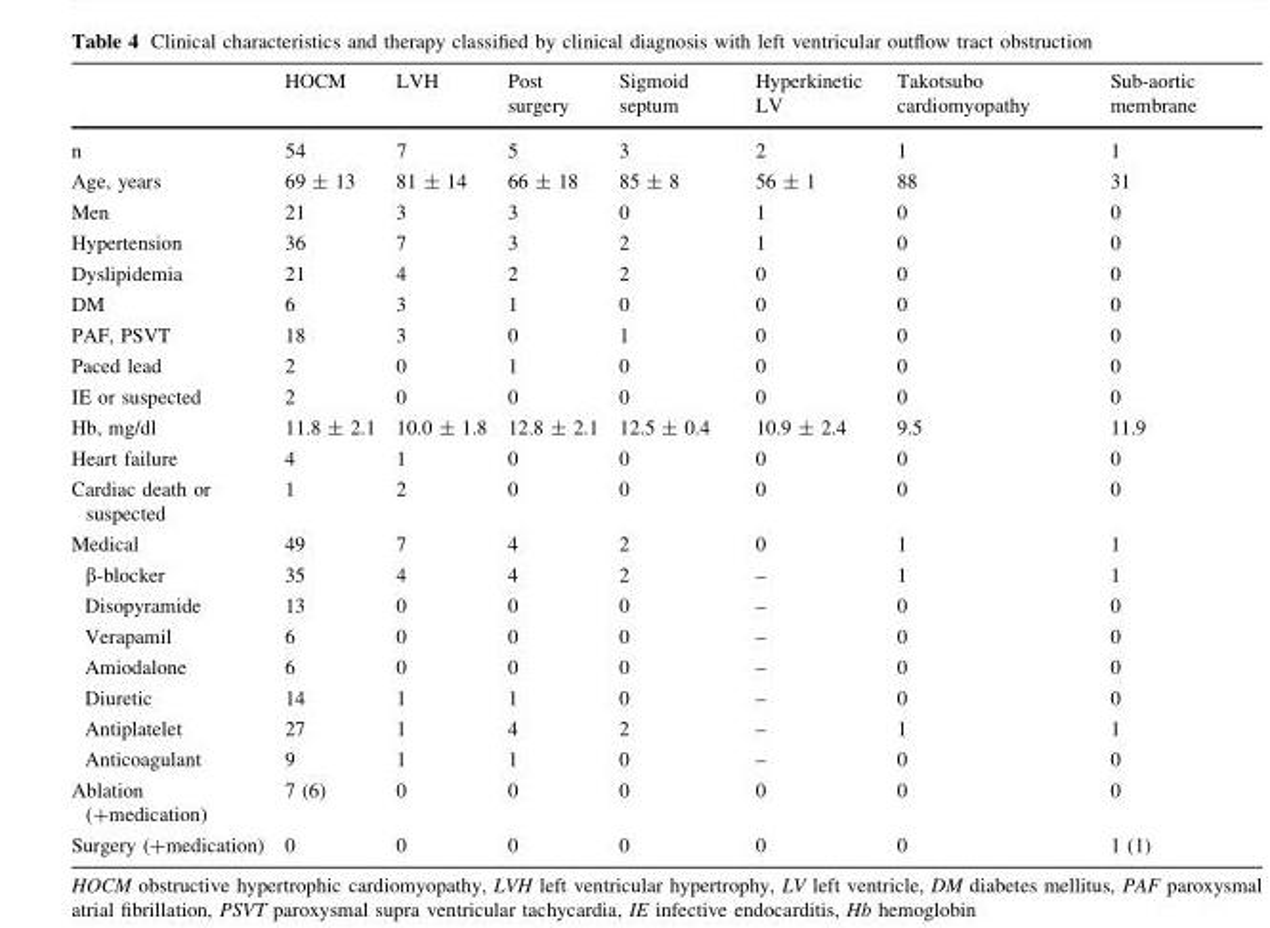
<table><thead><tr><td></td><td>HOCM</td><td>LVH</td><td>Post surgery</td><td>Sigmoid septum</td><td>Hyperkinetic LV</td><td>Takotsubo cardiomyopathy</td><td>Sub-aortic membrane</td></tr></thead><tbody><tr><td>n</td><td>54</td><td>7</td><td>5</td><td>3</td><td>2</td><td>1</td><td>1</td></tr><tr><td>Age, years</td><td>69 ± 13</td><td>81 ± 14</td><td>66 ± 18</td><td>85 ± 8</td><td>56 ± 1</td><td>88</td><td>31</td></tr><tr><td>Men</td><td>21</td><td>3</td><td>3</td><td>0</td><td>1</td><td>0</td><td>0</td></tr><tr><td>Hypertension</td><td>36</td><td>7</td><td>3</td><td>2</td><td>1</td><td>0</td><td>0</td></tr><tr><td>Dyslipidemia</td><td>21</td><td>4</td><td>2</td><td>2</td><td>0</td><td>0</td><td>0</td></tr><tr><td>DM</td><td>6</td><td>3</td><td>1</td><td>0</td><td>0</td><td>0</td><td>0</td></tr><tr><td>PAF, PSVT</td><td>18</td><td>3</td><td>0</td><td>1</td><td>0</td><td>0</td><td>0</td></tr><tr><td>Paced lead</td><td>2</td><td>0</td><td>1</td><td>0</td><td>0</td><td>0</td><td>0</td></tr><tr><td>IE or suspected</td><td>2</td><td>0</td><td>0</td><td>0</td><td>0</td><td>0</td><td>0</td></tr><tr><td>Hb, mg/dl</td><td>11.8 ± 2.1</td><td>10.0 ± 1.8</td><td>12.8 ± 2.1</td><td>12.5 ± 0.4</td><td>10.9 ± 2.4</td><td>9.5</td><td>11.9</td></tr><tr><td>Heart failure</td><td>4</td><td>1</td><td>0</td><td>0</td><td>0</td><td>0</td><td>0</td></tr><tr><td>Cardiac death or suspected</td><td>1</td><td>2</td><td>0</td><td>0</td><td>0</td><td>0</td><td>0</td></tr><tr><td>Medical</td><td>49</td><td>7</td><td>4</td><td>2</td><td>0</td><td>1</td><td>1</td></tr><tr><td>β-blocker</td><td>35</td><td>4</td><td>4</td><td>2</td><td>–</td><td>1</td><td>1</td></tr><tr><td>Disopyramide</td><td>13</td><td>0</td><td>0</td><td>0</td><td>–</td><td>0</td><td>0</td></tr><tr><td>Verapamil</td><td>6</td><td>0</td><td>0</td><td>0</td><td>–</td><td>0</td><td>0</td></tr><tr><td>Amiodalone</td><td>6</td><td>0</td><td>0</td><td>0</td><td>–</td><td>0</td><td>0</td></tr><tr><td>Diuretic</td><td>14</td><td>1</td><td>1</td><td>0</td><td>–</td><td>0</td><td>0</td></tr><tr><td>Antiplatelet</td><td>27</td><td>1</td><td>4</td><td>2</td><td>–</td><td>1</td><td>1</td></tr><tr><td>Anticoagulant</td><td>9</td><td>1</td><td>1</td><td>0</td><td>–</td><td>0</td><td>0</td></tr><tr><td>Ablation (+medication)</td><td>7 (6)</td><td>0</td><td>0</td><td>0</td><td>0</td><td>0</td><td>0</td></tr><tr><td>Surgery (+medication)</td><td>0</td><td>0</td><td>0</td><td>0</td><td>0</td><td>0</td><td>1 (1)</td></tr></tbody></table>